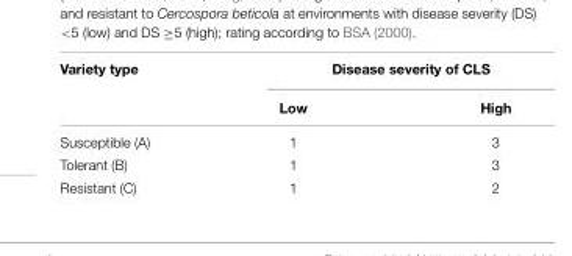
<table><thead><tr><td rowspan="2">Variety type</td><td colspan="2">Disease severity of CLS</td></tr><tr><td>Low</td><td>High</td></tr></thead><tbody><tr><td>Susceptible (A)</td><td>1</td><td>3</td></tr><tr><td>Tolerant (B)</td><td>1</td><td>3</td></tr><tr><td>Resistant (C)</td><td>1</td><td>2</td></tr></tbody></table>